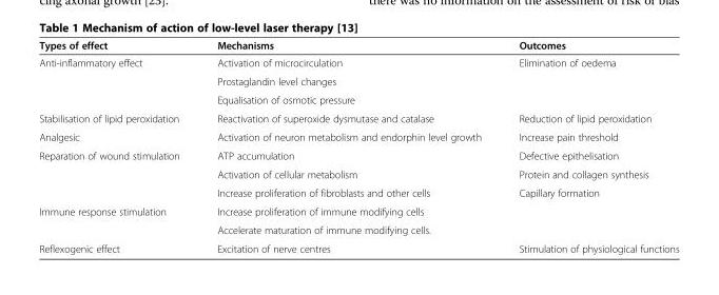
<table><thead><tr><td>Types of effect</td><td>Mechanisms</td><td>Outcomes</td></tr></thead><tbody><tr><td rowspan="3">Anti-inflammatory effect</td><td>Activation of microcirculation</td><td rowspan="3">Elimination of oedema</td></tr><tr><td>Prostaglandin level changes</td></tr><tr><td>Equalisation of osmotic pressure</td></tr><tr><td>Stabilisation of lipid peroxidation</td><td>Reactivation of superoxide dysmutase and catalase</td><td>Reduction of lipid peroxidation</td></tr><tr><td>Analgesic</td><td>Activation of neuron metabolism and endorphin level growth</td><td>Increase pain threshold</td></tr><tr><td rowspan="3">Reparation of wound stimulation</td><td>ATP accumulation</td><td>Defective epithelisation</td></tr><tr><td>Activation of cellular metabolism</td><td>Protein and collagen synthesis</td></tr><tr><td>Increase proliferation of fibroblasts and other cells</td><td>Capillary formation</td></tr><tr><td rowspan="2">Immune response stimulation</td><td>Increase proliferation of immune modifying cells</td><td></td></tr><tr><td>Accelerate maturation of immune modifying cells.</td><td></td></tr><tr><td>Reflexogenic effect</td><td>Excitation of nerve centres</td><td>Stimulation of physiological functions</td></tr></tbody></table>